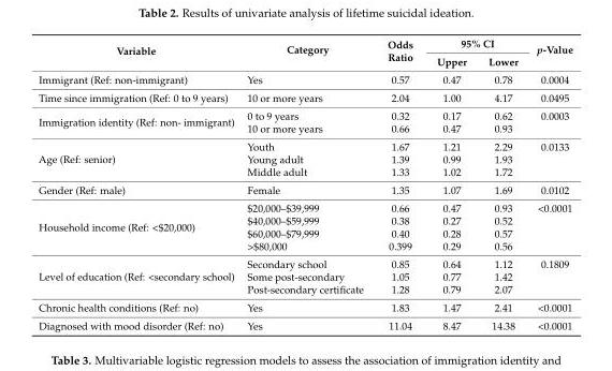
<table><thead><tr><td rowspan="2">Variable</td><td rowspan="2">Category</td><td rowspan="2">Odds Ratio</td><td colspan="2">95% CI</td><td rowspan="2">p-Value</td></tr><tr><td>Upper</td><td>Lower</td></tr></thead><tbody><tr><td>Immigrant (Ref: non-immigrant)</td><td>Yes</td><td>0.57</td><td>0.47</td><td>0.78</td><td>0.0004</td></tr><tr><td>Time since immigration (Ref: 0 to 9 years)</td><td>10 or more years</td><td>2.04</td><td>1.00</td><td>4.17</td><td>0.0495</td></tr><tr><td rowspan="2">Immigration identity (Ref: non- immigrant)</td><td>0 to 9 years</td><td>0.32</td><td>0.17</td><td>0.62</td><td>0.0003</td></tr><tr><td>10 or more years</td><td>0.66</td><td>0.47</td><td>0.93</td><td></td></tr><tr><td rowspan="3">Age (Ref: senior)</td><td>Youth</td><td>1.67</td><td>1.21</td><td>2.29</td><td>0.0133</td></tr><tr><td>Young adult</td><td>1.39</td><td>0.99</td><td>1.93</td><td></td></tr><tr><td>Middle adult</td><td>1.33</td><td>1.02</td><td>1.72</td><td></td></tr><tr><td>Gender (Ref: male)</td><td>Female</td><td>1.35</td><td>1.07</td><td>1.69</td><td>0.0102</td></tr><tr><td rowspan="4">Household income (Ref: &lt;$20,000)</td><td>$20,000–$39,999</td><td>0.66</td><td>0.47</td><td>0.93</td><td>&lt;0.0001</td></tr><tr><td>$40,000–$59,999</td><td>0.38</td><td>0.27</td><td>0.52</td><td></td></tr><tr><td>$60,000–$79,999</td><td>0.40</td><td>0.28</td><td>0.57</td><td></td></tr><tr><td>&gt;$80,000</td><td>0.399</td><td>0.29</td><td>0.56</td><td></td></tr><tr><td rowspan="3">Level of education (Ref: &lt;secondary school)</td><td>Secondary school</td><td>0.85</td><td>0.64</td><td>1.12</td><td>0.1809</td></tr><tr><td>Some post-secondary</td><td>1.05</td><td>0.77</td><td>1.42</td><td></td></tr><tr><td>Post-secondary certificate</td><td>1.28</td><td>0.79</td><td>2.07</td><td></td></tr><tr><td>Chronic health conditions (Ref: no)</td><td>Yes</td><td>1.83</td><td>1.47</td><td>2.41</td><td>&lt;0.0001</td></tr><tr><td>Diagnosed with mood disorder (Ref: no)</td><td>Yes</td><td>11.04</td><td>8.47</td><td>14.38</td><td>&lt;0.0001</td></tr></tbody></table>